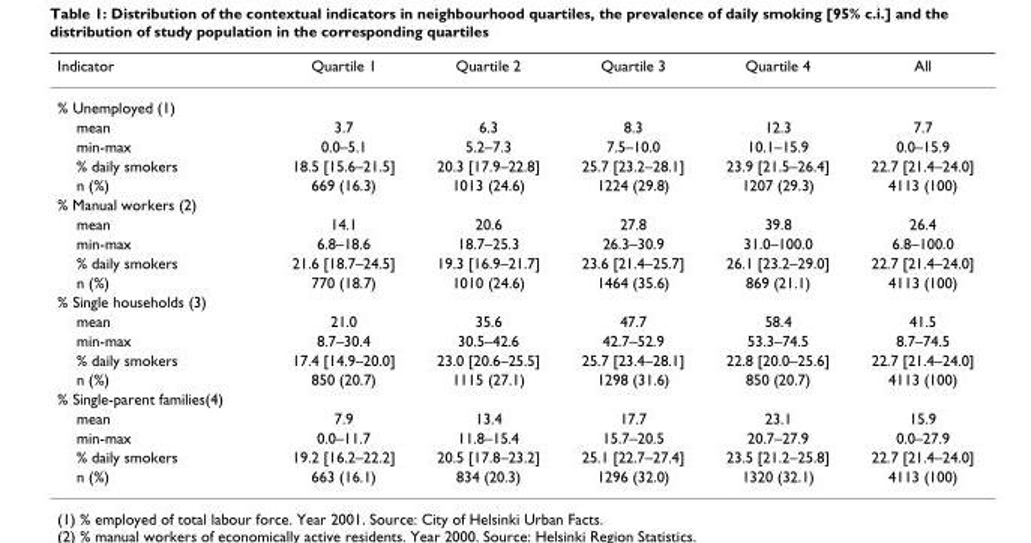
<table><thead><tr><td>Indicator</td><td>Quartile 1</td><td>Quartile 2</td><td>Quartile 3</td><td>Quartile 4</td><td>All</td></tr></thead><tbody><tr><td colspan="6">% Unemployed (1)</td></tr><tr><td>mean</td><td>3.7</td><td>6.3</td><td>8.3</td><td>12.3</td><td>7.7</td></tr><tr><td>min-max</td><td>0.0–5.1</td><td>5.2–7.3</td><td>7.5–10.0</td><td>10.1–15.9</td><td>0.0–15.9</td></tr><tr><td>% daily smokers</td><td>18.5 [15.6–21.5]</td><td>20.3 [17.9–22.8]</td><td>25.7 [23.2–28.1]</td><td>23.9 [21.5–26.4]</td><td>22.7 [21.4–24.0]</td></tr><tr><td>n (%)</td><td>669 (16.3)</td><td>1013 (24.6)</td><td>1224 (29.8)</td><td>1207 (29.3)</td><td>4113 (100)</td></tr><tr><td colspan="6">% Manual workers (2)</td></tr><tr><td>mean</td><td>14.1</td><td>20.6</td><td>27.8</td><td>39.8</td><td>26.4</td></tr><tr><td>min-max</td><td>6.8–18.6</td><td>18.7–25.3</td><td>26.3–30.9</td><td>31.0–100.0</td><td>6.8–100.0</td></tr><tr><td>% daily smokers</td><td>21.6 [18.7–24.5]</td><td>19.3 [16.9–21.7]</td><td>23.6 [21.4–25.7]</td><td>26.1 [23.2–29.0]</td><td>22.7 [21.4–24.0]</td></tr><tr><td>n (%)</td><td>770 (18.7)</td><td>1010 (24.6)</td><td>1464 (35.6)</td><td>869 (21.1)</td><td>4113 (100)</td></tr><tr><td colspan="6">% Single households (3)</td></tr><tr><td>mean</td><td>21.0</td><td>35.6</td><td>47.7</td><td>58.4</td><td>41.5</td></tr><tr><td>min-max</td><td>8.7–30.4</td><td>30.5–42.6</td><td>42.7–52.9</td><td>53.3–74.5</td><td>8.7–74.5</td></tr><tr><td>% daily smokers</td><td>17.4 [14.9–20.0]</td><td>23.0 [20.6–25.5]</td><td>25.7 [23.4–28.1]</td><td>22.8 [20.0–25.6]</td><td>22.7 [21.4–24.0]</td></tr><tr><td>n (%)</td><td>850 (20.7)</td><td>1115 (27.1)</td><td>1298 (31.6)</td><td>850 (20.7)</td><td>4113 (100)</td></tr><tr><td colspan="6">% Single-parent families(4)</td></tr><tr><td>mean</td><td>7.9</td><td>13.4</td><td>17.7</td><td>23.1</td><td>15.9</td></tr><tr><td>min-max</td><td>0.0–11.7</td><td>11.8–15.4</td><td>15.7–20.5</td><td>20.7–27.9</td><td>0.0–27.9</td></tr><tr><td>% daily smokers</td><td>19.2 [16.2–22.2]</td><td>20.5 [17.8–23.2]</td><td>25.1 [22.7–27.4]</td><td>23.5 [21.2–25.8]</td><td>22.7 [21.4–24.0]</td></tr><tr><td>n (%)</td><td>663 (16.1)</td><td>834 (20.3)</td><td>1296 (32.0)</td><td>1320 (32.1)</td><td>4113 (100)</td></tr></tbody></table>